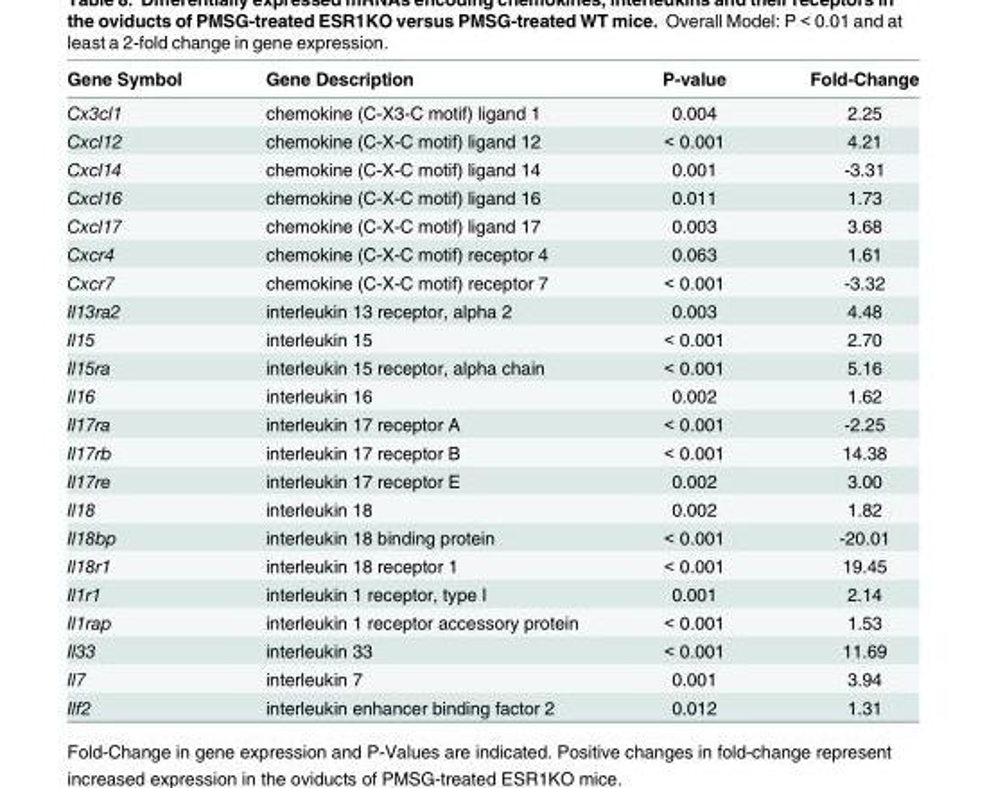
<table><thead><tr><td>Gene Symbol</td><td>Gene Description</td><td>P-value</td><td>Fold-Change</td></tr></thead><tbody><tr><td>Cx3cl1</td><td>chemokine (C-X3-C motif) ligand 1</td><td>0.004</td><td>2.25</td></tr><tr><td>Cxcl12</td><td>chemokine (C-X-C motif) ligand 12</td><td>&lt; 0.001</td><td>4.21</td></tr><tr><td>Cxcl14</td><td>chemokine (C-X-C motif) ligand 14</td><td>0.001</td><td>-3.31</td></tr><tr><td>Cxcl16</td><td>chemokine (C-X-C motif) ligand 16</td><td>0.011</td><td>1.73</td></tr><tr><td>Cxcl17</td><td>chemokine (C-X-C motif) ligand 17</td><td>0.003</td><td>3.68</td></tr><tr><td>Cxcr4</td><td>chemokine (C-X-C motif) receptor 4</td><td>0.063</td><td>1.61</td></tr><tr><td>Cxcr7</td><td>chemokine (C-X-C motif) receptor 7</td><td>&lt; 0.001</td><td>-3.32</td></tr><tr><td>Il13ra2</td><td>interleukin 13 receptor, alpha 2</td><td>0.003</td><td>4.48</td></tr><tr><td>Il15</td><td>interleukin 15</td><td>&lt; 0.001</td><td>2.70</td></tr><tr><td>Il15ra</td><td>interleukin 15 receptor, alpha chain</td><td>&lt; 0.001</td><td>5.16</td></tr><tr><td>Il16</td><td>interleukin 16</td><td>0.002</td><td>1.62</td></tr><tr><td>Il17ra</td><td>interleukin 17 receptor A</td><td>&lt; 0.001</td><td>-2.25</td></tr><tr><td>Il17rb</td><td>interleukin 17 receptor B</td><td>&lt; 0.001</td><td>14.38</td></tr><tr><td>Il17re</td><td>interleukin 17 receptor E</td><td>0.002</td><td>3.00</td></tr><tr><td>Il18</td><td>interleukin 18</td><td>0.002</td><td>1.82</td></tr><tr><td>Il18bp</td><td>interleukin 18 binding protein</td><td>&lt; 0.001</td><td>-20.01</td></tr><tr><td>Il18r1</td><td>interleukin 18 receptor 1</td><td>&lt; 0.001</td><td>19.45</td></tr><tr><td>Il1r1</td><td>interleukin 1 receptor, type I</td><td>0.001</td><td>2.14</td></tr><tr><td>Il1rap</td><td>interleukin 1 receptor accessory protein</td><td>&lt; 0.001</td><td>1.53</td></tr><tr><td>Il33</td><td>interleukin 33</td><td>&lt; 0.001</td><td>11.69</td></tr><tr><td>Il7</td><td>interleukin 7</td><td>0.001</td><td>3.94</td></tr><tr><td>Ilf2</td><td>interleukin enhancer binding factor 2</td><td>0.012</td><td>1.31</td></tr></tbody></table>